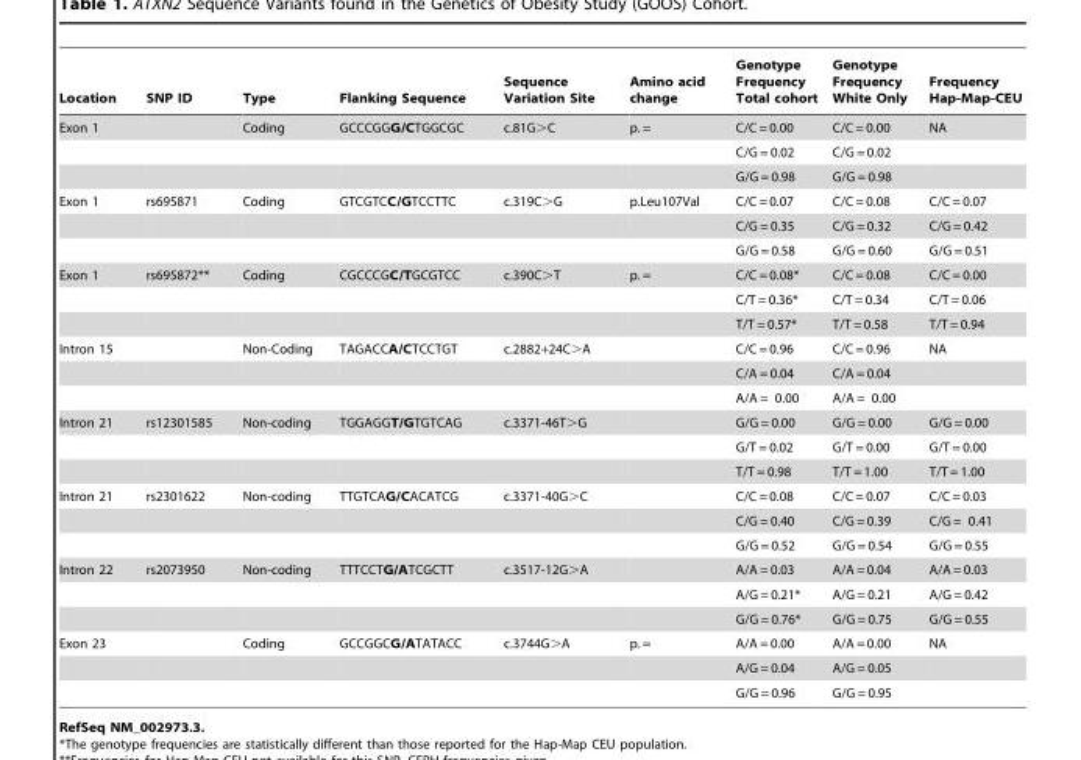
<table><thead><tr><td>Location</td><td>SNP ID</td><td>Type</td><td>Flanking Sequence</td><td>Sequence Variation Site</td><td>Amino acid change</td><td>Genotype Frequency Total cohort</td><td>Genotype Frequency White Only</td><td>Frequency Hap-Map-CEU</td></tr></thead><tbody><tr><td rowspan="3">Exon 1</td><td></td><td>Coding</td><td>GCCCGGG/CTGGCGC</td><td>c.81G&gt;C</td><td>p. =</td><td>C/C = 0.00</td><td>C/C = 0.00</td><td>NA</td></tr><tr><td></td><td></td><td></td><td></td><td></td><td>C/G = 0.02</td><td>C/G = 0.02</td><td></td></tr><tr><td></td><td></td><td></td><td></td><td></td><td>G/G = 0.98</td><td>G/G = 0.98</td><td></td></tr><tr><td rowspan="3">Exon 1</td><td>rs695871</td><td>Coding</td><td>GTCGTCC/GTCCTTC</td><td>c.319C&gt;G</td><td>p.Leu107Val</td><td>C/C = 0.07</td><td>C/C = 0.08</td><td>C/C = 0.07</td></tr><tr><td></td><td></td><td></td><td></td><td></td><td>C/G = 0.35</td><td>C/G = 0.32</td><td>C/G = 0.42</td></tr><tr><td></td><td></td><td></td><td></td><td></td><td>G/G = 0.58</td><td>G/G = 0.60</td><td>G/G = 0.51</td></tr><tr><td rowspan="3">Exon 1</td><td>rs695872**</td><td>Coding</td><td>CGCCCGC/TGCGTCC</td><td>c.390C&gt;T</td><td>p. =</td><td>C/C = 0.08*</td><td>C/C = 0.08</td><td>C/C = 0.00</td></tr><tr><td></td><td></td><td></td><td></td><td></td><td>C/T = 0.36*</td><td>C/T = 0.34</td><td>C/T = 0.06</td></tr><tr><td></td><td></td><td></td><td></td><td></td><td>T/T = 0.57*</td><td>T/T = 0.58</td><td>T/T = 0.94</td></tr><tr><td rowspan="3">Intron 15</td><td></td><td>Non-Coding</td><td>TAGACCA/CTCCTGT</td><td>c.2882+24C&gt;A</td><td></td><td>C/C = 0.96</td><td>C/C = 0.96</td><td>NA</td></tr><tr><td></td><td></td><td></td><td></td><td></td><td>C/A = 0.04</td><td>C/A = 0.04</td><td></td></tr><tr><td></td><td></td><td></td><td></td><td></td><td>A/A = 0.00</td><td>A/A = 0.00</td><td></td></tr><tr><td rowspan="3">Intron 21</td><td>rs12301585</td><td>Non-coding</td><td>TGGAGGT/GTGTCAG</td><td>c.3371-46T&gt;G</td><td></td><td>G/G = 0.00</td><td>G/G = 0.00</td><td>G/G = 0.00</td></tr><tr><td></td><td></td><td></td><td></td><td></td><td>G/T = 0.02</td><td>G/T = 0.00</td><td>G/T = 0.00</td></tr><tr><td></td><td></td><td></td><td></td><td></td><td>T/T = 0.98</td><td>T/T = 1.00</td><td>T/T = 1.00</td></tr><tr><td rowspan="3">Intron 21</td><td>rs2301622</td><td>Non-coding</td><td>TTGTCAG/CACATCG</td><td>c.3371-40G&gt;C</td><td></td><td>C/C = 0.08</td><td>C/C = 0.07</td><td>C/C = 0.03</td></tr><tr><td></td><td></td><td></td><td></td><td></td><td>C/G = 0.40</td><td>C/G = 0.39</td><td>C/G = 0.41</td></tr><tr><td></td><td></td><td></td><td></td><td></td><td>G/G = 0.52</td><td>G/G = 0.54</td><td>G/G = 0.55</td></tr><tr><td rowspan="3">Intron 22</td><td>rs2073950</td><td>Non-coding</td><td>TTTCCTG/ATCGCTT</td><td>c.3517-12G&gt;A</td><td></td><td>A/A = 0.03</td><td>A/A = 0.04</td><td>A/A = 0.03</td></tr><tr><td></td><td></td><td></td><td></td><td></td><td>A/G = 0.21*</td><td>A/G = 0.21</td><td>A/G = 0.42</td></tr><tr><td></td><td></td><td></td><td></td><td></td><td>G/G = 0.76*</td><td>G/G = 0.75</td><td>G/G = 0.55</td></tr><tr><td rowspan="3">Exon 23</td><td></td><td>Coding</td><td>GCCGGCG/ATATACC</td><td>c.3744G&gt;A</td><td>p. =</td><td>A/A = 0.00</td><td>A/A = 0.00</td><td>NA</td></tr><tr><td></td><td></td><td></td><td></td><td></td><td>A/G = 0.04</td><td>A/G = 0.05</td><td></td></tr><tr><td></td><td></td><td></td><td></td><td></td><td>G/G = 0.96</td><td>G/G = 0.95</td><td></td></tr></tbody></table>